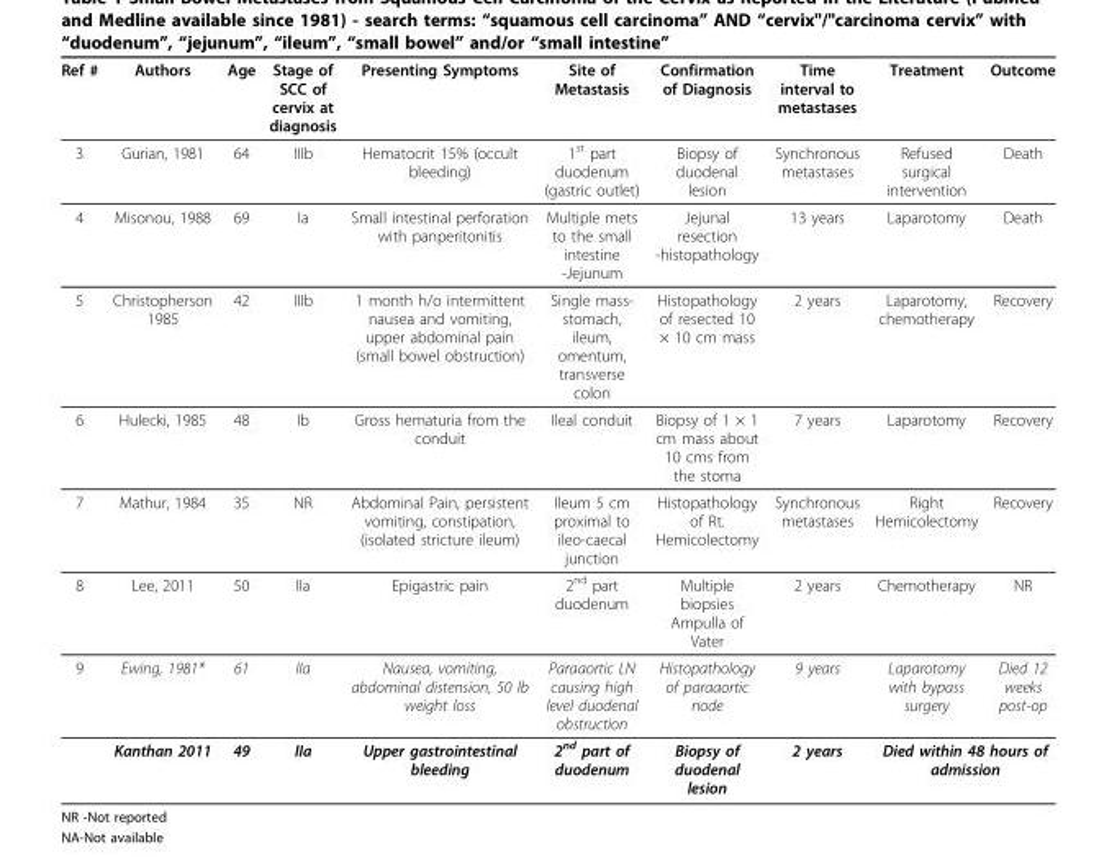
<table><thead><tr><td>Ref #</td><td>Authors</td><td>Age</td><td>Stage of SCC of cervix at diagnosis</td><td>Presenting Symptoms</td><td>Site of Metastasis</td><td>Confirmation of Diagnosis</td><td>Time interval to metastases</td><td>Treatment</td><td>Outcome</td></tr></thead><tbody><tr><td>3</td><td>Gurian, 1981</td><td>64</td><td>IIIb</td><td>Hematocrit 15% (occult bleeding)</td><td>1<sup>st</sup> part duodenum (gastric outlet)</td><td>Biopsy of duodenal lesion</td><td>Synchronous metastases</td><td>Refused surgical intervention</td><td>Death</td></tr><tr><td>4</td><td>Misonou, 1988</td><td>69</td><td>Ia</td><td>Small intestinal perforation with panperitonitis</td><td>Multiple mets to the small intestine -Jejunum</td><td>Jejunal resection -histopathology</td><td>13 years</td><td>Laparotomy</td><td>Death</td></tr><tr><td>5</td><td>Christopherson 1985</td><td>42</td><td>IIIb</td><td>1 month h/o intermittent nausea and vomiting, upper abdominal pain (small bowel obstruction)</td><td>Single mass- stomach, ileum, omentum, transverse colon</td><td>Histopathology of resected 10 × 10 cm mass</td><td>2 years</td><td>Laparotomy, chemotherapy</td><td>Recovery</td></tr><tr><td>6</td><td>Hulecki, 1985</td><td>48</td><td>Ib</td><td>Gross hematuria from the conduit</td><td>Ileal conduit</td><td>Biopsy of 1 × 1 cm mass about 10 cms from the stoma</td><td>7 years</td><td>Laparotomy</td><td>Recovery</td></tr><tr><td>7</td><td>Mathur, 1984</td><td>35</td><td>NR</td><td>Abdominal Pain, persistent vomiting, constipation, (isolated stricture ileum)</td><td>Ileum 5 cm proximal to ileo-caecal junction</td><td>Histopathology of Rt. Hemicolectomy</td><td>Synchronous metastases</td><td>Right Hemicolectomy</td><td>Recovery</td></tr><tr><td>8</td><td>Lee, 2011</td><td>50</td><td>IIa</td><td>Epigastric pain</td><td>2<sup>nd</sup> part duodenum</td><td>Multiple biopsies Ampulla of Vater</td><td>2 years</td><td>Chemotherapy</td><td>NR</td></tr><tr><td rowspan="2">9</td><td>Ewing, 1981*</td><td>61</td><td>IIa</td><td>Nausea, vomiting, abdominal distension, 50 lb weight loss</td><td>Paraaortic LN causing high level duodenal obstruction</td><td>Histopathology of paraaortic node</td><td>9 years</td><td>Laparotomy with bypass surgery</td><td>Died 12 weeks post-op</td></tr><tr><td>Kanthan 2011</td><td>49</td><td>IIa</td><td>Upper gastrointestinal bleeding</td><td>2<sup>nd</sup> part of duodenum</td><td>Biopsy of duodenal lesion</td><td>2 years</td><td colspan="2">Died within 48 hours of admission</td></tr></tbody></table>